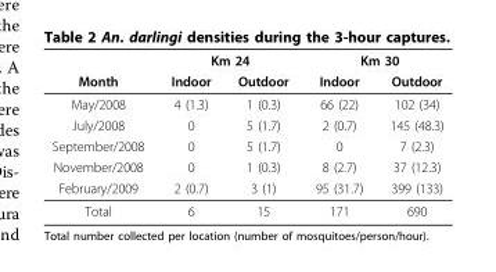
<table><thead><tr><td rowspan="2">Month</td><td colspan="2">Km 24</td><td colspan="2">Km 30</td></tr><tr><td>Indoor</td><td>Outdoor</td><td>Indoor</td><td>Outdoor</td></tr></thead><tbody><tr><td>May/2008</td><td>4 (1.3)</td><td>1 (0.3)</td><td>66 (22)</td><td>102 (34)</td></tr><tr><td>July/2008</td><td>0</td><td>5 (1.7)</td><td>2 (0.7)</td><td>145 (48.3)</td></tr><tr><td>September/2008</td><td>0</td><td>5 (1.7)</td><td>0</td><td>7 (2.3)</td></tr><tr><td>November/2008</td><td>0</td><td>1 (0.3)</td><td>8 (2.7)</td><td>37 (12.3)</td></tr><tr><td>February/2009</td><td>2 (0.7)</td><td>3 (1)</td><td>95 (31.7)</td><td>399 (133)</td></tr><tr><td>Total</td><td>6</td><td>15</td><td>171</td><td>690</td></tr></tbody></table>